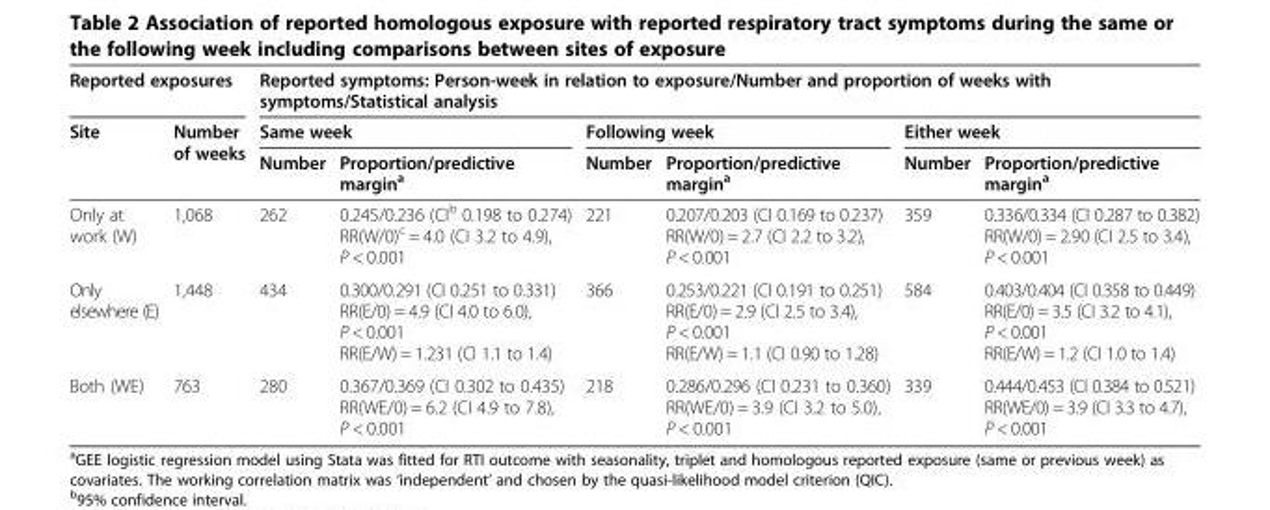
<table><thead><tr><td colspan="2">Reported exposures</td><td colspan="6">Reported symptoms: Person-week in relation to exposure/Number and proportion of weeks with symptoms/Statistical analysis</td></tr><tr><td rowspan="2">Site</td><td rowspan="2">Number of weeks</td><td colspan="2">Same week</td><td colspan="2">Following week</td><td colspan="2">Either week</td></tr><tr><td>Number</td><td>Proportion/predictive margin<sup>a</sup></td><td>Number</td><td>Proportion/predictive margin<sup>a</sup></td><td>Number</td><td>Proportion/predictive margin<sup>a</sup></td></tr></thead><tbody><tr><td>Only at work (W)</td><td>1,068</td><td>262</td><td>0.245/0.236 (CI<sup>b</sup> 0.198 to 0.274) RR(W/0)<sup>c</sup> = 4.0 (CI 3.2 to 4.9), P &lt; 0.001</td><td>221</td><td>0.207/0.203 (CI 0.169 to 0.237) RR(W/0) = 2.7 (CI 2.2 to 3.2), P &lt; 0.001</td><td>359</td><td>0.336/0.334 (CI 0.287 to 0.382) RR(W/0) = 2.90 (CI 2.5 to 3.4), P &lt; 0.001</td></tr><tr><td>Only elsewhere (E)</td><td>1,448</td><td>434</td><td>0.300/0.291 (CI 0.251 to 0.331) RR(E/0) = 4.9 (CI 4.0 to 6.0), P &lt; 0.001 RR(E/W) = 1.231 (CI 1.1 to 1.4)</td><td>366</td><td>0.253/0.221 (CI 0.191 to 0.251) RR(E/0) = 2.9 (CI 2.5 to 3.4), P &lt; 0.001 RR(E/W) = 1.1 (CI 0.90 to 1.28)</td><td>584</td><td>0.403/0.404 (CI 0.358 to 0.449) RR(E/0) = 3.5 (CI 3.2 to 4.1), P &lt; 0.001 RR(E/W) = 1.2 (CI 1.0 to 1.4)</td></tr><tr><td>Both (WE)</td><td>763</td><td>280</td><td>0.367/0.369 (CI 0.302 to 0.435) RR(WE/0) = 6.2 (CI 4.9 to 7.8), P &lt; 0.001</td><td>218</td><td>0.286/0.296 (CI 0.231 to 0.360) RR(WE/0) = 3.9 (CI 3.2 to 5.0), P &lt; 0.001</td><td>339</td><td>0.444/0.453 (CI 0.384 to 0.521) RR(WE/0) = 3.9 (CI 3.3 to 4.7), P &lt; 0.001</td></tr></tbody></table>